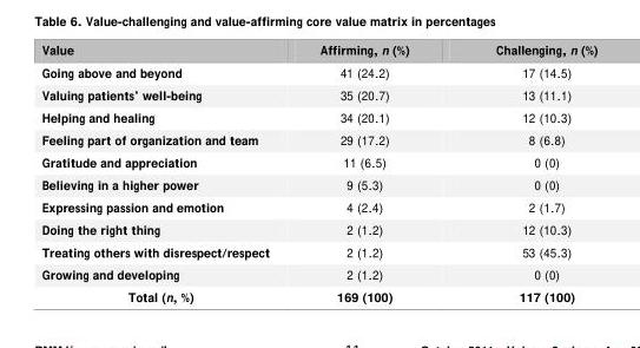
<table><thead><tr><td>Value</td><td>Affirming, n (%)</td><td>Challenging, n (%)</td></tr></thead><tbody><tr><td>Going above and beyond</td><td>41 (24.2)</td><td>17 (14.5)</td></tr><tr><td>Valuing patients’ well-being</td><td>35 (20.7)</td><td>13 (11.1)</td></tr><tr><td>Helping and healing</td><td>34 (20.1)</td><td>12 (10.3)</td></tr><tr><td>Feeling part of organization and team</td><td>29 (17.2)</td><td>8 (6.8)</td></tr><tr><td>Gratitude and appreciation</td><td>11 (6.5)</td><td>0 (0)</td></tr><tr><td>Believing in a higher power</td><td>9 (5.3)</td><td>0 (0)</td></tr><tr><td>Expressing passion and emotion</td><td>4 (2.4)</td><td>2 (1.7)</td></tr><tr><td>Doing the right thing</td><td>2 (1.2)</td><td>12 (10.3)</td></tr><tr><td>Treating others with disrespect/respect</td><td>2 (1.2)</td><td>53 (45.3)</td></tr><tr><td>Growing and developing</td><td>2 (1.2)</td><td>0 (0)</td></tr><tr><td>Total (n, %)</td><td>169 (100)</td><td>117 (100)</td></tr></tbody></table>